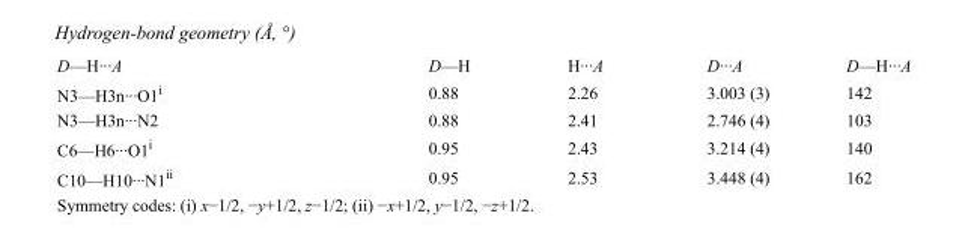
<table><tbody><tr><td>D—H···A</td><td>D—H</td><td>H···A</td><td>D···A</td><td>D—H···A</td></tr><tr><td>N3—H3n···O1<sup>i</sup></td><td>0.88</td><td>2.26</td><td>3.003 (3)</td><td>142</td></tr><tr><td>N3—H3n···N2</td><td>0.88</td><td>2.41</td><td>2.746 (4)</td><td>103</td></tr><tr><td>C6—H6···O1<sup>i</sup></td><td>0.95</td><td>2.43</td><td>3.214 (4)</td><td>140</td></tr><tr><td>C10—H10···N1<sup>ii</sup></td><td>0.95</td><td>2.53</td><td>3.448 (4)</td><td>162</td></tr></tbody></table>